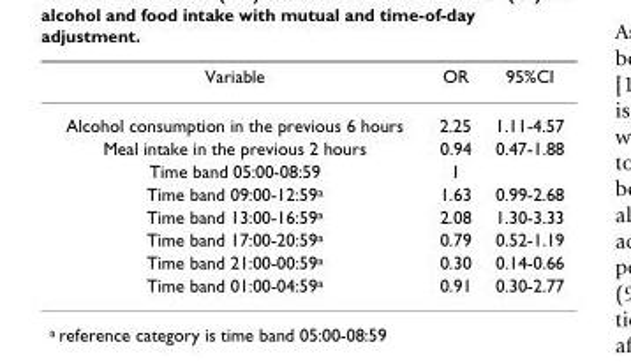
<table><thead><tr><td>Variable</td><td>OR</td><td>95%CI</td></tr></thead><tbody><tr><td>Alcohol consumption in the previous 6 hours</td><td>2.25</td><td>1.11-4.57</td></tr><tr><td>Meal intake in the previous 2 hours</td><td>0.94</td><td>0.47-1.88</td></tr><tr><td>Time band 05:00-08:59</td><td>1</td><td></td></tr><tr><td>Time band 09:00-12:59<sup>a</sup></td><td>1.63</td><td>0.99-2.68</td></tr><tr><td>Time band 13:00-16:59<sup>a</sup></td><td>2.08</td><td>1.30-3.33</td></tr><tr><td>Time band 17:00-20:59<sup>a</sup></td><td>0.79</td><td>0.52-1.19</td></tr><tr><td>Time band 21:00-00:59<sup>a</sup></td><td>0.30</td><td>0.14-0.66</td></tr><tr><td>Time band 01:00-04:59<sup>a</sup></td><td>0.91</td><td>0.30-2.77</td></tr></tbody></table>